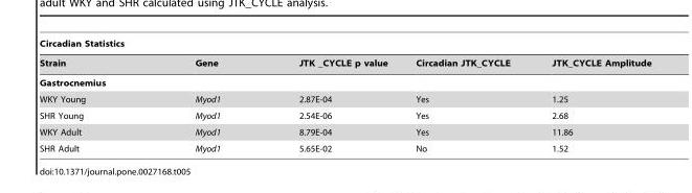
<table><thead><tr><td colspan="5">Circadian Statistics</td></tr><tr><td>Strain</td><td>Gene</td><td>JTK _CYCLE p value</td><td>Circadian JTK_CYCLE</td><td>JTK_CYCLE Amplitude</td></tr></thead><tbody><tr><td colspan="5">Gastrocnemius</td></tr><tr><td>WKY Young</td><td>Myod1</td><td>2.87E-04</td><td>Yes</td><td>1.25</td></tr><tr><td>SHR Young</td><td>Myod1</td><td>2.54E-06</td><td>Yes</td><td>2.68</td></tr><tr><td>WKY Adult</td><td>Myod1</td><td>8.79E-04</td><td>Yes</td><td>11.86</td></tr><tr><td>SHR Adult</td><td>Myod1</td><td>5.65E-02</td><td>No</td><td>1.52</td></tr></tbody></table>